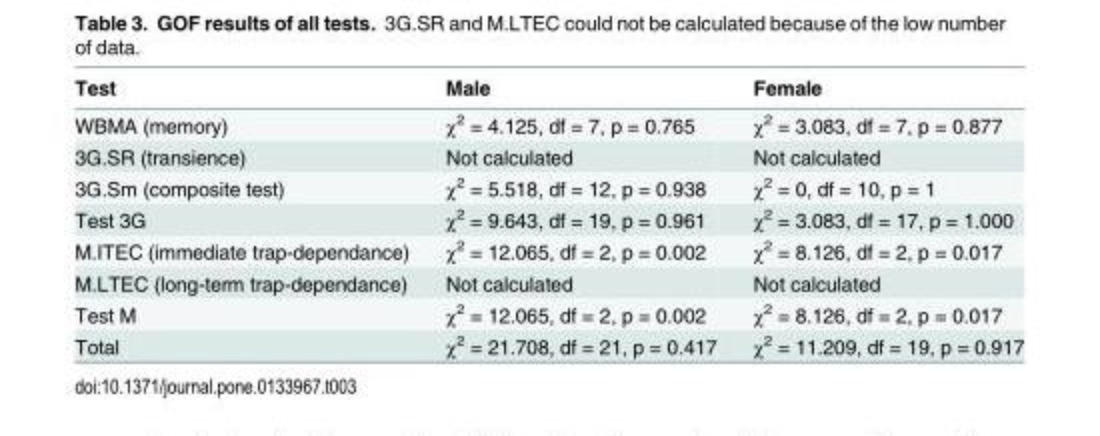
<table><thead><tr><td>Test</td><td>Male</td><td>Female</td></tr></thead><tbody><tr><td>WBMA (memory)</td><td>χ<sup>2</sup> = 4.125, df = 7, p = 0.765</td><td>χ<sup>2</sup> = 3.083, df = 7, p = 0.877</td></tr><tr><td>3G.SR (transience)</td><td>Not calculated</td><td>Not calculated</td></tr><tr><td>3G.Sm (composite test)</td><td>χ<sup>2</sup> = 5.518, df = 12, p = 0.938</td><td>χ<sup>2</sup> = 0, df = 10, p = 1</td></tr><tr><td>Test 3G</td><td>χ<sup>2</sup> = 9.643, df = 19, p = 0.961</td><td>χ<sup>2</sup> = 3.083, df = 17, p = 1.000</td></tr><tr><td>M.ITEC (immediate trap-dependance)</td><td>χ<sup>2</sup> = 12.065, df = 2, p = 0.002</td><td>χ<sup>2</sup> = 8.126, df = 2, p = 0.017</td></tr><tr><td>M.LTEC (long-term trap-dependance)</td><td>Not calculated</td><td>Not calculated</td></tr><tr><td>Test M</td><td>χ<sup>2</sup> = 12.065, df = 2, p = 0.002</td><td>χ<sup>2</sup> = 8.126, df = 2, p = 0.017</td></tr><tr><td>Total</td><td>χ<sup>2</sup> = 21.708, df = 21, p = 0.417</td><td>χ<sup>2</sup> = 11.209, df = 19, p = 0.917</td></tr></tbody></table>